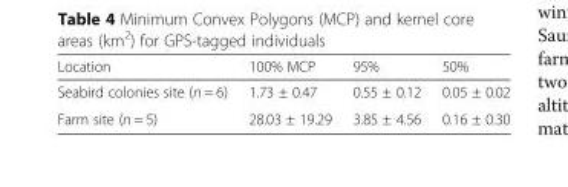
<table><thead><tr><td>Location</td><td>100% MCP</td><td>95%</td><td>50%</td></tr></thead><tbody><tr><td>Seabird colonies site (n = 6)</td><td>1.73 ± 0.47</td><td>0.55 ± 0.12</td><td>0.05 ± 0.02</td></tr><tr><td>Farm site (n = 5)</td><td>28.03 ± 19.29</td><td>3.85 ± 4.56</td><td>0.16 ± 0.30</td></tr></tbody></table>